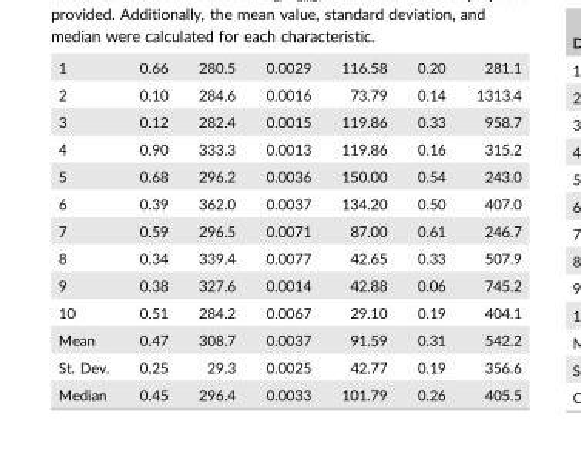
<table><tbody><tr><td>1</td><td>0.66</td><td>280.5</td><td>0.0029</td><td>116.58</td><td>0.20</td><td>281.1</td></tr><tr><td>2</td><td>0.10</td><td>284.6</td><td>0.0016</td><td>73.79</td><td>0.14</td><td>1313.4</td></tr><tr><td>3</td><td>0.12</td><td>282.4</td><td>0.0015</td><td>119.86</td><td>0.33</td><td>958.7</td></tr><tr><td>4</td><td>0.90</td><td>333.3</td><td>0.0013</td><td>119.86</td><td>0.16</td><td>315.2</td></tr><tr><td>5</td><td>0.68</td><td>296.2</td><td>0.0036</td><td>150.00</td><td>0.54</td><td>243.0</td></tr><tr><td>6</td><td>0.39</td><td>362.0</td><td>0.0037</td><td>134.20</td><td>0.50</td><td>407.0</td></tr><tr><td>7</td><td>0.59</td><td>296.5</td><td>0.0071</td><td>87.00</td><td>0.61</td><td>246.7</td></tr><tr><td>8</td><td>0.34</td><td>339.4</td><td>0.0077</td><td>42.65</td><td>0.33</td><td>507.9</td></tr><tr><td>9</td><td>0.38</td><td>327.6</td><td>0.0014</td><td>42.88</td><td>0.06</td><td>745.2</td></tr><tr><td>10</td><td>0.51</td><td>284.2</td><td>0.0067</td><td>29.10</td><td>0.19</td><td>404.1</td></tr><tr><td>Mean</td><td>0.47</td><td>308.7</td><td>0.0037</td><td>91.59</td><td>0.31</td><td>542.2</td></tr><tr><td>St. Dev.</td><td>0.25</td><td>29.3</td><td>0.0025</td><td>42.77</td><td>0.19</td><td>356.6</td></tr><tr><td>Median</td><td>0.45</td><td>296.4</td><td>0.0033</td><td>101.79</td><td>0.26</td><td>405.5</td></tr></tbody></table>